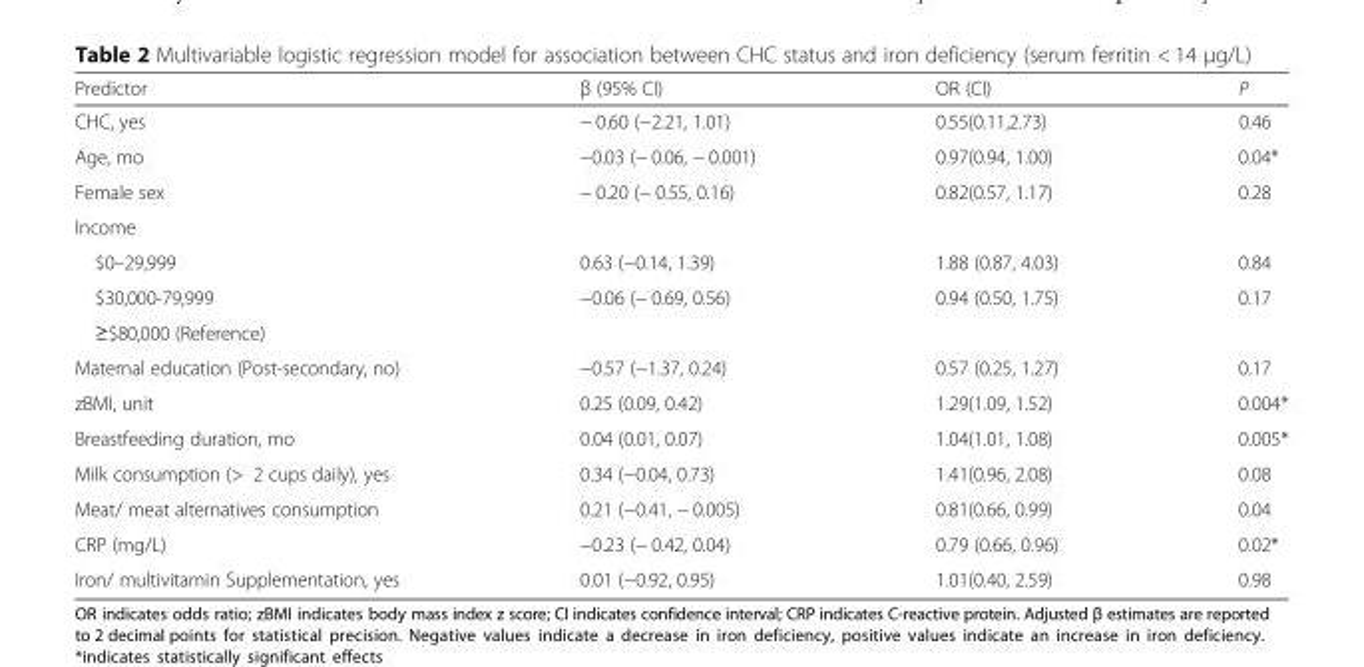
<table><thead><tr><td>Predictor</td><td>β (95% CI)</td><td>OR (CI)</td><td>P</td></tr></thead><tbody><tr><td>CHC, yes</td><td>− 0.60 (−2.21, 1.01)</td><td>0.55(0.11,2.73)</td><td>0.46</td></tr><tr><td>Age, mo</td><td>−0.03 (− 0.06, − 0.001)</td><td>0.97(0.94, 1.00)</td><td>0.04*</td></tr><tr><td>Female sex</td><td>− 0.20 (− 0.55, 0.16)</td><td>0.82(0.57, 1.17)</td><td>0.28</td></tr><tr><td colspan="4">Income</td></tr><tr><td>$0–29,999</td><td>0.63 (−0.14, 1.39)</td><td>1.88 (0.87, 4.03)</td><td>0.84</td></tr><tr><td>$30,000-79,999</td><td>−0.06 (− 0.69, 0.56)</td><td>0.94 (0.50, 1.75)</td><td>0.17</td></tr><tr><td colspan="4">≥$80,000 (Reference)</td></tr><tr><td>Maternal education (Post-secondary, no)</td><td>−0.57 (−1.37, 0.24)</td><td>0.57 (0.25, 1.27)</td><td>0.17</td></tr><tr><td>zBMI, unit</td><td>0.25 (0.09, 0.42)</td><td>1.29(1.09, 1.52)</td><td>0.004*</td></tr><tr><td>Breastfeeding duration, mo</td><td>0.04 (0.01, 0.07)</td><td>1.04(1.01, 1.08)</td><td>0.005*</td></tr><tr><td>Milk consumption (&gt; 2 cups daily), yes</td><td>0.34 (−0.04, 0.73)</td><td>1.41(0.96, 2.08)</td><td>0.08</td></tr><tr><td>Meat/ meat alternatives consumption</td><td>0.21 (−0.41, − 0.005)</td><td>0.81(0.66, 0.99)</td><td>0.04</td></tr><tr><td>CRP (mg/L)</td><td>−0.23 (− 0.42, 0.04)</td><td>0.79 (0.66, 0.96)</td><td>0.02*</td></tr><tr><td>Iron/ multivitamin Supplementation, yes</td><td>0.01 (−0.92, 0.95)</td><td>1.01(0.40, 2.59)</td><td>0.98</td></tr></tbody></table>